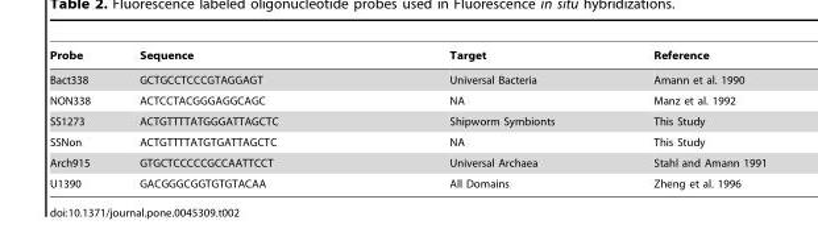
<table><thead><tr><td>Probe</td><td>Sequence</td><td>Target</td><td>Reference</td></tr></thead><tbody><tr><td>Bact338</td><td>GCTGCCTCCCGTAGGAGT</td><td>Universal Bacteria</td><td>Amann et al. 1990</td></tr><tr><td>NON338</td><td>ACTCCTACGGGAGGCAGC</td><td>NA</td><td>Manz et al. 1992</td></tr><tr><td>SS1273</td><td>ACTGTTTTATGGGATTAGCTC</td><td>Shipworm Symbionts</td><td>This Study</td></tr><tr><td>SSNon</td><td>ACTGTTTTATGTGATTAGCTC</td><td>NA</td><td>This Study</td></tr><tr><td>Arch915</td><td>GTGCTCCCCCGCCAATTCCT</td><td>Universal Archaea</td><td>Stahl and Amann 1991</td></tr><tr><td>U1390</td><td>GACGGGCGGTGTGTACAA</td><td>All Domains</td><td>Zheng et al. 1996</td></tr></tbody></table>